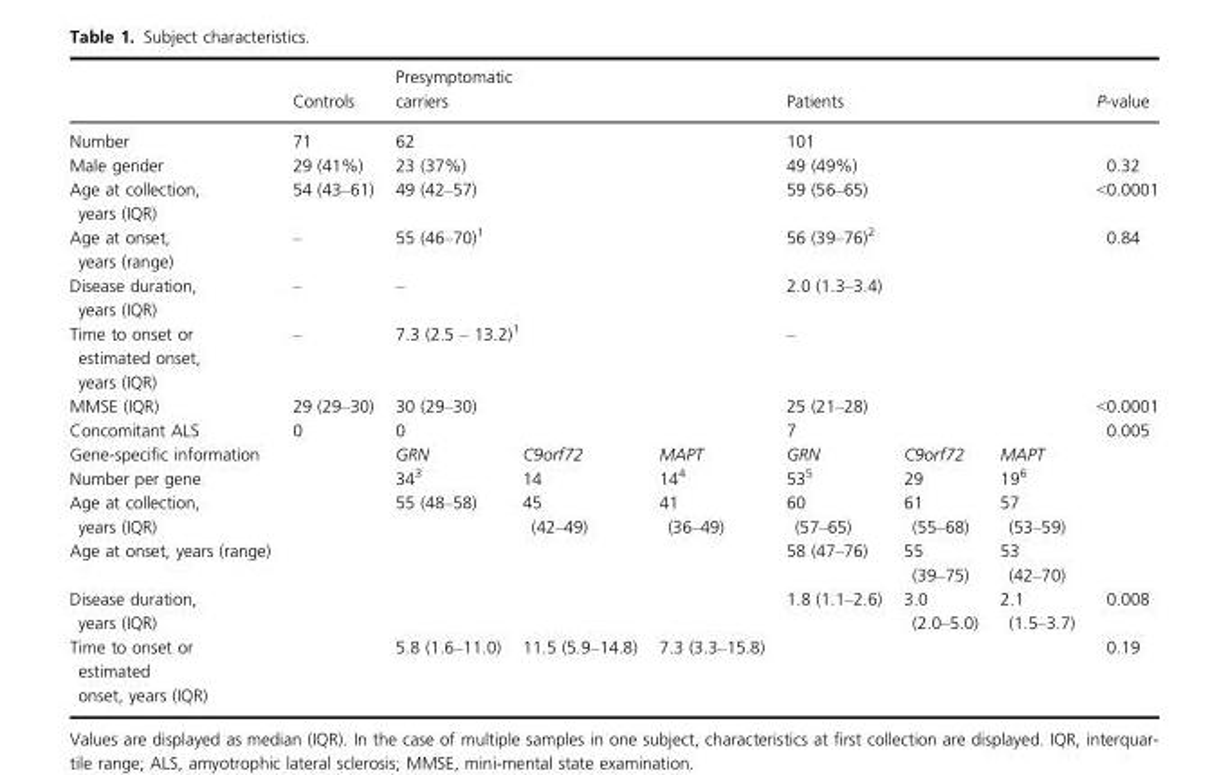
<table><thead><tr><td></td><td>Controls</td><td colspan="3">Presymptomatic carriers</td><td colspan="3">Patients</td><td>P-value</td></tr></thead><tbody><tr><td>Number</td><td>71</td><td colspan="3">62</td><td colspan="3">101</td><td></td></tr><tr><td>Male gender</td><td>29 (41%)</td><td colspan="3">23 (37%)</td><td colspan="3">49 (49%)</td><td>0.32</td></tr><tr><td>Age at collection, years (IQR)</td><td>54 (43–61)</td><td colspan="3">49 (42–57)</td><td colspan="3">59 (56–65)</td><td>&lt;0.0001</td></tr><tr><td>Age at onset, years (range)</td><td>–</td><td colspan="3">55 (46–70)1</td><td colspan="3">56 (39–76)2</td><td>0.84</td></tr><tr><td>Disease duration, years (IQR)</td><td>–</td><td colspan="3">–</td><td colspan="3">2.0 (1.3–3.4)</td><td></td></tr><tr><td>Time to onset or estimated onset, years (IQR)</td><td>–</td><td colspan="3">7.3 (2.5 – 13.2)1</td><td colspan="3">–</td><td></td></tr><tr><td>MMSE (IQR)</td><td>29 (29–30)</td><td colspan="3">30 (29–30)</td><td colspan="3">25 (21–28)</td><td>&lt;0.0001</td></tr><tr><td>Concomitant ALS</td><td>0</td><td colspan="3">0</td><td colspan="3">7</td><td>0.005</td></tr><tr><td>Gene-specific information</td><td></td><td>GRN</td><td>C9orf72</td><td>MAPT</td><td>GRN</td><td>C9orf72</td><td>MAPT</td><td></td></tr><tr><td>Number per gene</td><td></td><td>343</td><td>14</td><td>144</td><td>535</td><td>29</td><td>196</td><td></td></tr><tr><td>Age at collection, years (IQR)</td><td></td><td>55 (48–58)</td><td>45 (42–49)</td><td>41 (36–49)</td><td>60 (57–65)</td><td>61 (55–68)</td><td>57 (53–59)</td><td></td></tr><tr><td>Age at onset, years (range)</td><td></td><td></td><td></td><td></td><td>58 (47–76)</td><td>55 (39–75)</td><td>53 (42–70)</td><td></td></tr><tr><td>Disease duration, years (IQR)</td><td></td><td></td><td></td><td></td><td>1.8 (1.1–2.6)</td><td>3.0 (2.0–5.0)</td><td>2.1 (1.5–3.7)</td><td>0.008</td></tr><tr><td>Time to onset or estimated onset, years (IQR)</td><td></td><td>5.8 (1.6–11.0)</td><td>11.5 (5.9–14.8)</td><td>7.3 (3.3–15.8)</td><td></td><td></td><td></td><td>0.19</td></tr></tbody></table>